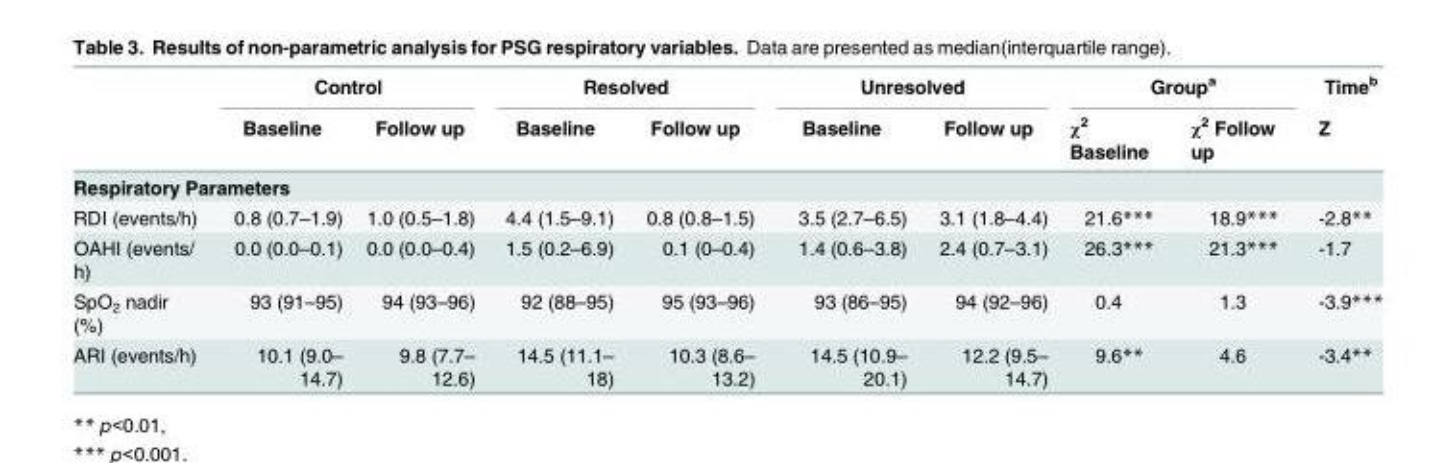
<table><thead><tr><td rowspan="2"></td><td colspan="2">Control</td><td colspan="2">Resolved</td><td colspan="2">Unresolved</td><td colspan="2">Group<sup>a</sup></td><td rowspan="2">Time<sup>b</sup> Z</td></tr><tr><td>Baseline</td><td>Follow up</td><td>Baseline</td><td>Follow up</td><td>Baseline</td><td>Follow up</td><td>χ<sup>2</sup> Baseline</td><td>χ<sup>2</sup> Follow up</td></tr></thead><tbody><tr><td colspan="10">Respiratory Parameters</td></tr><tr><td>RDI (events/h)</td><td>0.8 (0.7–1.9)</td><td>1.0 (0.5–1.8)</td><td>4.4 (1.5–9.1)</td><td>0.8 (0.8–1.5)</td><td>3.5 (2.7–6.5)</td><td>3.1 (1.8–4.4)</td><td>21.6***</td><td>18.9***</td><td>-2.8**</td></tr><tr><td>OAHI (events/ h)</td><td>0.0 (0.0–0.1)</td><td>0.0 (0.0–0.4)</td><td>1.5 (0.2–6.9)</td><td>0.1 (0–0.4)</td><td>1.4 (0.6–3.8)</td><td>2.4 (0.7–3.1)</td><td>26.3***</td><td>21.3***</td><td>-1.7</td></tr><tr><td>SpO<sub>2</sub> nadir (%)</td><td>93 (91–95)</td><td>94 (93–96)</td><td>92 (88–95)</td><td>95 (93–96)</td><td>93 (86–95)</td><td>94 (92–96)</td><td>0.4</td><td>1.3</td><td>-3.9***</td></tr><tr><td>ARI (events/h)</td><td>10.1 (9.0– 14.7)</td><td>9.8 (7.7– 12.6)</td><td>14.5 (11.1– 18)</td><td>10.3 (8.6– 13.2)</td><td>14.5 (10.9– 20.1)</td><td>12.2 (9.5– 14.7)</td><td>9.6**</td><td>4.6</td><td>-3.4**</td></tr></tbody></table>